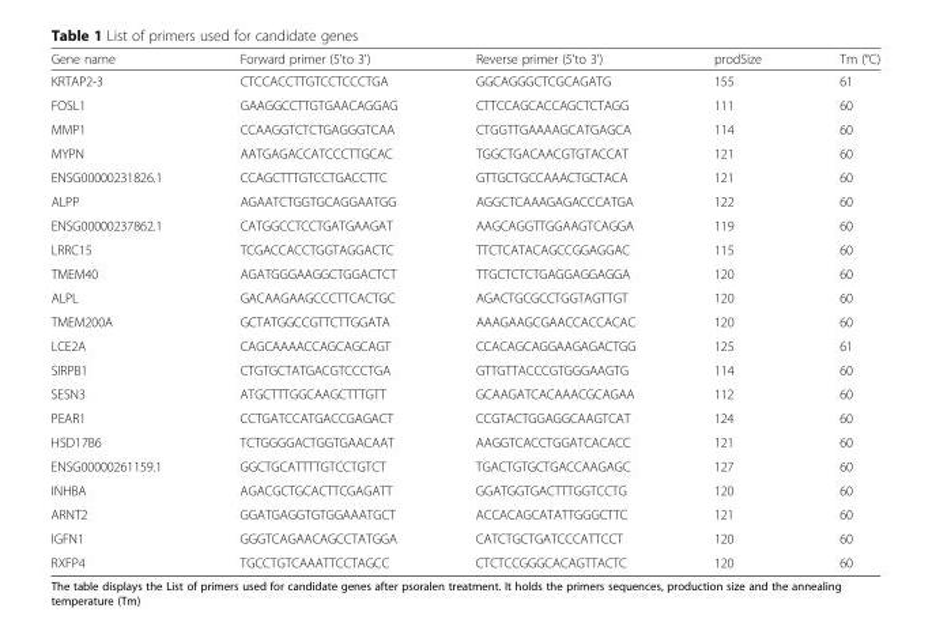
<table><thead><tr><td>Gene name</td><td>Forward primer (5&#x27;to 3&#x27;)</td><td>Reverse primer (5&#x27;to 3&#x27;)</td><td>prodSize</td><td>Tm (°C)</td></tr></thead><tbody><tr><td>KRTAP2-3</td><td>CTCCACCTTGTCCTCCCTGA</td><td>GGCAGGGCTCGCAGATG</td><td>155</td><td>61</td></tr><tr><td>FOSL1</td><td>GAAGGCCTTGTGAACAGGAG</td><td>CTTCCAGCACCAGCTCTAGG</td><td>111</td><td>60</td></tr><tr><td>MMP1</td><td>CCAAGGTCTCTGAGGGTCAA</td><td>CTGGTTGAAAAGCATGAGCA</td><td>114</td><td>60</td></tr><tr><td>MYPN</td><td>AATGAGACCATCCCTTGCAC</td><td>TGGCTGACAACGTGTACCAT</td><td>121</td><td>60</td></tr><tr><td>ENSG00000231826.1</td><td>CCAGCTTTGTCCTGACCTTC</td><td>GTTGCTGCCAAACTGCTACA</td><td>121</td><td>60</td></tr><tr><td>ALPP</td><td>AGAATCTGGTGCAGGAATGG</td><td>AGGCTCAAAGAGACCCATGA</td><td>122</td><td>60</td></tr><tr><td>ENSG00000237862.1</td><td>CATGGCCTCCTGATGAAGAT</td><td>AAGCAGGTTGGAAGTCAGGA</td><td>119</td><td>60</td></tr><tr><td>LRRC15</td><td>TCGACCACCTGGTAGGACTC</td><td>TTCTCATACAGCCGGAGGAC</td><td>115</td><td>60</td></tr><tr><td>TMEM40</td><td>AGATGGGAAGGCTGGACTCT</td><td>TTGCTCTCTGAGGAGGAGGA</td><td>120</td><td>60</td></tr><tr><td>ALPL</td><td>GACAAGAAGCCCTTCACTGC</td><td>AGACTGCGCCTGGTAGTTGT</td><td>120</td><td>60</td></tr><tr><td>TMEM200A</td><td>GCTATGGCCGTTCTTGGATA</td><td>AAAGAAGCGAACCACCACAC</td><td>120</td><td>60</td></tr><tr><td>LCE2A</td><td>CAGCAAAACCAGCAGCAGT</td><td>CCACAGCAGGAAGAGACTGG</td><td>125</td><td>61</td></tr><tr><td>SIRPB1</td><td>CTGTGCTATGACGTCCCTGA</td><td>GTTGTTACCCGTGGGAAGTG</td><td>114</td><td>60</td></tr><tr><td>SESN3</td><td>ATGCTTTGGCAAGCTTTGTT</td><td>GCAAGATCACAAACGCAGAA</td><td>112</td><td>60</td></tr><tr><td>PEAR1</td><td>CCTGATCCATGACCGAGACT</td><td>CCGTACTGGAGGCAAGTCAT</td><td>124</td><td>60</td></tr><tr><td>HSD17B6</td><td>TCTGGGGACTGGTGAACAAT</td><td>AAGGTCACCTGGATCACACC</td><td>121</td><td>60</td></tr><tr><td>ENSG00000261159.1</td><td>GGCTGCATTTTGTCCTGTCT</td><td>TGACTGTGCTGACCAAGAGC</td><td>127</td><td>60</td></tr><tr><td>INHBA</td><td>AGACGCTGCACTTCGAGATT</td><td>GGATGGTGACTTTGGTCCTG</td><td>120</td><td>60</td></tr><tr><td>ARNT2</td><td>GGATGAGGTGTGGAAATGCT</td><td>ACCACAGCATATTGGGCTTC</td><td>121</td><td>60</td></tr><tr><td>IGFN1</td><td>GGGTCAGAACAGCCTATGGA</td><td>CATCTGCTGATCCCATTCCT</td><td>120</td><td>60</td></tr><tr><td>RXFP4</td><td>TGCCTGTCAAATTCCTAGCC</td><td>CTCTCCGGGCACAGTTACTC</td><td>120</td><td>60</td></tr></tbody></table>